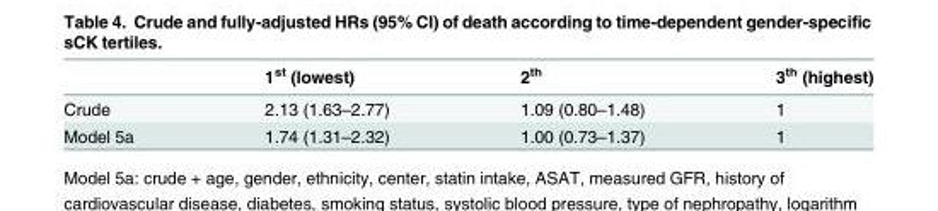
<table><thead><tr><td></td><td>1<sup>st</sup> (lowest)</td><td>2<sup>th</sup></td><td>3<sup>th</sup> (highest)</td></tr></thead><tbody><tr><td>Crude</td><td>2.13 (1.63–2.77)</td><td>1.09 (0.80–1.48)</td><td>1</td></tr><tr><td>Model 5a</td><td>1.74 (1.31–2.32)</td><td>1.00 (0.73–1.37)</td><td>1</td></tr></tbody></table>